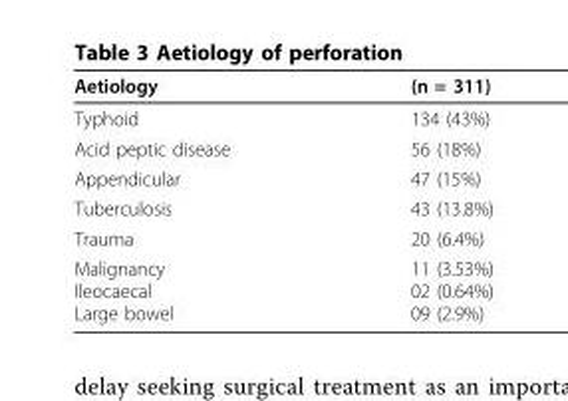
<table><thead><tr><td>Aetiology</td><td>(n = 311)</td></tr></thead><tbody><tr><td>Typhoid</td><td>134 (43%)</td></tr><tr><td>Acid peptic disease</td><td>56 (18%)</td></tr><tr><td>Appendicular</td><td>47 (15%)</td></tr><tr><td>Tuberculosis</td><td>43 (13.8%)</td></tr><tr><td>Trauma</td><td>20 (6.4%)</td></tr><tr><td>Malignancy Ileocaecal Large bowel</td><td>11 (3.53%) 02 (0.64%) 09 (2.9%)</td></tr></tbody></table>